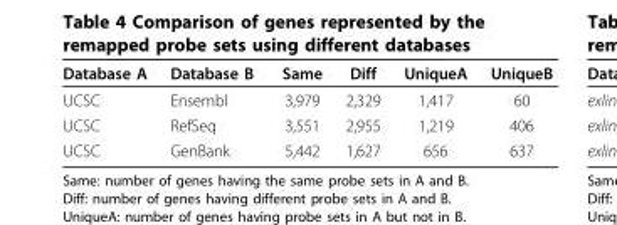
<table><thead><tr><td>Database A</td><td>Database B</td><td>Same</td><td>Diff</td><td>UniqueA</td><td>UniqueB</td></tr></thead><tbody><tr><td>UCSC</td><td>Ensembl</td><td>3,979</td><td>2,329</td><td>1,417</td><td>60</td></tr><tr><td>UCSC</td><td>RefSeq</td><td>3,551</td><td>2,955</td><td>1,219</td><td>406</td></tr><tr><td>UCSC</td><td>GenBank</td><td>5,442</td><td>1,627</td><td>656</td><td>637</td></tr></tbody></table>